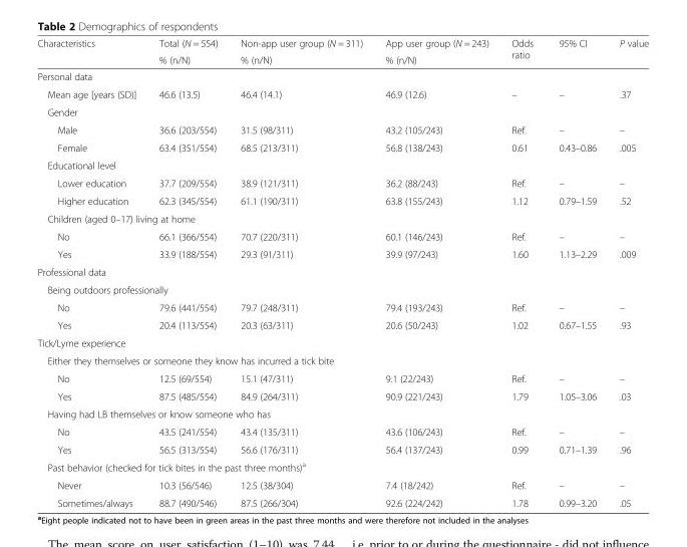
<table><thead><tr><td rowspan="2">Characteristics</td><td rowspan="2">Total (N = 554) % (n/N)</td><td rowspan="2">Non-app user group (N = 311) % (n/N)</td><td rowspan="2">App user group (N = 243) % (n/N)</td><td rowspan="2">Odds ratio</td><td rowspan="2">95% CI</td><td rowspan="2">P value</td></tr><tr></tr></thead><tbody><tr><td colspan="7">Personal data</td></tr><tr><td>Mean age [years (SD)]</td><td>46.6 (13.5)</td><td>46.4 (14.1)</td><td>46.9 (12.6)</td><td>–</td><td>–</td><td>.37</td></tr><tr><td colspan="7">Gender</td></tr><tr><td>Male</td><td>36.6 (203/554)</td><td>31.5 (98/311)</td><td>43.2 (105/243)</td><td>Ref.</td><td>–</td><td>–</td></tr><tr><td>Female</td><td>63.4 (351/554)</td><td>68.5 (213/311)</td><td>56.8 (138/243)</td><td>0.61</td><td>0.43–0.86</td><td>.005</td></tr><tr><td colspan="7">Educational level</td></tr><tr><td>Lower education</td><td>37.7 (209/554)</td><td>38.9 (121/311)</td><td>36.2 (88/243)</td><td>Ref.</td><td>–</td><td>–</td></tr><tr><td>Higher education</td><td>62.3 (345/554)</td><td>61.1 (190/311)</td><td>63.8 (155/243)</td><td>1.12</td><td>0.79–1.59</td><td>.52</td></tr><tr><td colspan="7">Children (aged 0–17) living at home</td></tr><tr><td>No</td><td>66.1 (366/554)</td><td>70.7 (220/311)</td><td>60.1 (146/243)</td><td>Ref.</td><td>–</td><td>–</td></tr><tr><td>Yes</td><td>33.9 (188/554)</td><td>29.3 (91/311)</td><td>39.9 (97/243)</td><td>1.60</td><td>1.13–2.29</td><td>.009</td></tr><tr><td colspan="7">Professional data</td></tr><tr><td colspan="7">Being outdoors professionally</td></tr><tr><td>No</td><td>79.6 (441/554)</td><td>79.7 (248/311)</td><td>79.4 (193/243)</td><td>Ref.</td><td>–</td><td>–</td></tr><tr><td>Yes</td><td>20.4 (113/554)</td><td>20.3 (63/311)</td><td>20.6 (50/243)</td><td>1.02</td><td>0.67–1.55</td><td>.93</td></tr><tr><td colspan="7">Tick/Lyme experience</td></tr><tr><td colspan="7">Either they themselves or someone they know has incurred a tick bite</td></tr><tr><td>No</td><td>12.5 (69/554)</td><td>15.1 (47/311)</td><td>9.1 (22/243)</td><td>Ref.</td><td>–</td><td>–</td></tr><tr><td>Yes</td><td>87.5 (485/554)</td><td>84.9 (264/311)</td><td>90.9 (221/243)</td><td>1.79</td><td>1.05–3.06</td><td>.03</td></tr><tr><td colspan="7">Having had LB themselves or know someone who has</td></tr><tr><td>No</td><td>43.5 (241/554)</td><td>43.4 (135/311)</td><td>43.6 (106/243)</td><td>Ref.</td><td>–</td><td>–</td></tr><tr><td>Yes</td><td>56.5 (313/554)</td><td>56.6 (176/311)</td><td>56.4 (137/243)</td><td>0.99</td><td>0.71–1.39</td><td>.96</td></tr><tr><td colspan="7">Past behavior (checked for tick bites in the past three months)<sup>a</sup></td></tr><tr><td>Never</td><td>10.3 (56/546)</td><td>12.5 (38/304)</td><td>7.4 (18/242)</td><td>Ref.</td><td>–</td><td>–</td></tr><tr><td>Sometimes/always</td><td>88.7 (490/546)</td><td>87.5 (266/304)</td><td>92.6 (224/242)</td><td>1.78</td><td>0.99–3.20</td><td>.05</td></tr></tbody></table>